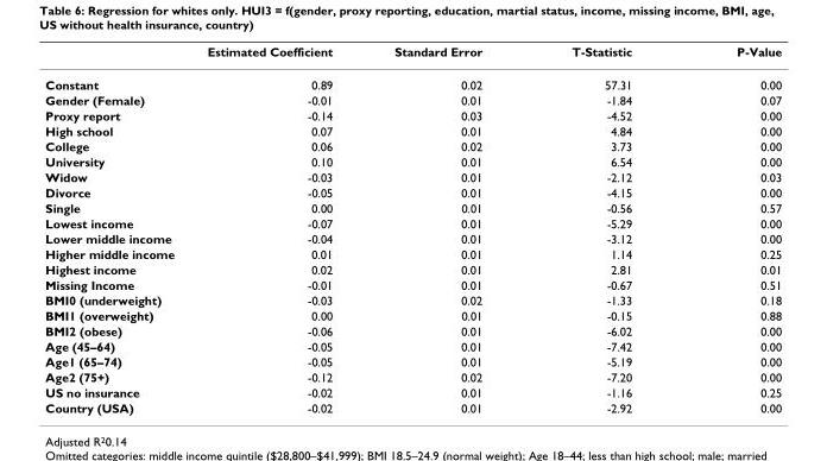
<table><thead><tr><td></td><td>Estimated Coefficient</td><td>Standard Error</td><td>T-Statistic</td><td>P-Value</td></tr></thead><tbody><tr><td>Constant</td><td>0.89</td><td>0.02</td><td>57.31</td><td>0.00</td></tr><tr><td>Gender (Female)</td><td>-0.01</td><td>0.01</td><td>-1.84</td><td>0.07</td></tr><tr><td>Proxy report</td><td>-0.14</td><td>0.03</td><td>-4.52</td><td>0.00</td></tr><tr><td>High school</td><td>0.07</td><td>0.01</td><td>4.84</td><td>0.00</td></tr><tr><td>College</td><td>0.06</td><td>0.02</td><td>3.73</td><td>0.00</td></tr><tr><td>University</td><td>0.10</td><td>0.01</td><td>6.54</td><td>0.00</td></tr><tr><td>Widow</td><td>-0.03</td><td>0.01</td><td>-2.12</td><td>0.03</td></tr><tr><td>Divorce</td><td>-0.05</td><td>0.01</td><td>-4.15</td><td>0.00</td></tr><tr><td>Single</td><td>0.00</td><td>0.01</td><td>-0.56</td><td>0.57</td></tr><tr><td>Lowest income</td><td>-0.07</td><td>0.01</td><td>-5.29</td><td>0.00</td></tr><tr><td>Lower middle income</td><td>-0.04</td><td>0.01</td><td>-3.12</td><td>0.00</td></tr><tr><td>Higher middle income</td><td>0.01</td><td>0.01</td><td>1.14</td><td>0.25</td></tr><tr><td>Highest income</td><td>0.02</td><td>0.01</td><td>2.81</td><td>0.01</td></tr><tr><td>Missing Income</td><td>-0.01</td><td>0.01</td><td>-0.67</td><td>0.51</td></tr><tr><td>BMI0 (underweight)</td><td>-0.03</td><td>0.02</td><td>-1.33</td><td>0.18</td></tr><tr><td>BMI1 (overweight)</td><td>0.00</td><td>0.01</td><td>-0.15</td><td>0.88</td></tr><tr><td>BMI2 (obese)</td><td>-0.06</td><td>0.01</td><td>-6.02</td><td>0.00</td></tr><tr><td>Age (45–64)</td><td>-0.05</td><td>0.01</td><td>-7.42</td><td>0.00</td></tr><tr><td>Age1 (65–74)</td><td>-0.05</td><td>0.01</td><td>-5.19</td><td>0.00</td></tr><tr><td>Age2 (75+)</td><td>-0.12</td><td>0.02</td><td>-7.20</td><td>0.00</td></tr><tr><td>US no insurance</td><td>-0.02</td><td>0.01</td><td>-1.16</td><td>0.25</td></tr><tr><td>Country (USA)</td><td>-0.02</td><td>0.01</td><td>-2.92</td><td>0.00</td></tr></tbody></table>